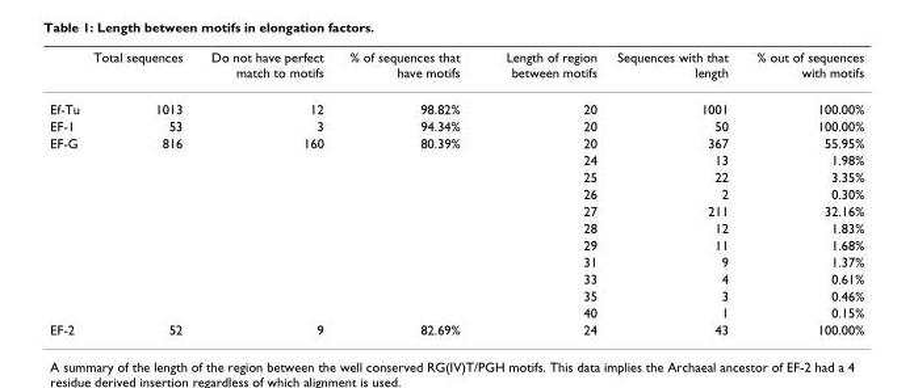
<table><thead><tr><td></td><td>Total sequences</td><td>Do not have perfect match to motifs</td><td>% of sequences that have motifs</td><td>Length of region between motifs</td><td>Sequences with that length</td><td>% out of sequences with motifs</td></tr></thead><tbody><tr><td>Ef-Tu</td><td>1013</td><td>12</td><td>98.82%</td><td>20</td><td>1001</td><td>100.00%</td></tr><tr><td>EF-1</td><td>53</td><td>3</td><td>94.34%</td><td>20</td><td>50</td><td>100.00%</td></tr><tr><td rowspan="11">EF-G</td><td>816</td><td>160</td><td>80.39%</td><td>20</td><td>367</td><td>55.95%</td></tr><tr><td></td><td></td><td></td><td>24</td><td>13</td><td>1.98%</td></tr><tr><td></td><td></td><td></td><td>25</td><td>22</td><td>3.35%</td></tr><tr><td></td><td></td><td></td><td>26</td><td>2</td><td>0.30%</td></tr><tr><td></td><td></td><td></td><td>27</td><td>211</td><td>32.16%</td></tr><tr><td></td><td></td><td></td><td>28</td><td>12</td><td>1.83%</td></tr><tr><td></td><td></td><td></td><td>29</td><td>11</td><td>1.68%</td></tr><tr><td></td><td></td><td></td><td>31</td><td>9</td><td>1.37%</td></tr><tr><td></td><td></td><td></td><td>33</td><td>4</td><td>0.61%</td></tr><tr><td></td><td></td><td></td><td>35</td><td>3</td><td>0.46%</td></tr><tr><td></td><td></td><td></td><td>40</td><td>1</td><td>0.15%</td></tr><tr><td>EF-2</td><td>52</td><td>9</td><td>82.69%</td><td>24</td><td>43</td><td>100.00%</td></tr></tbody></table>